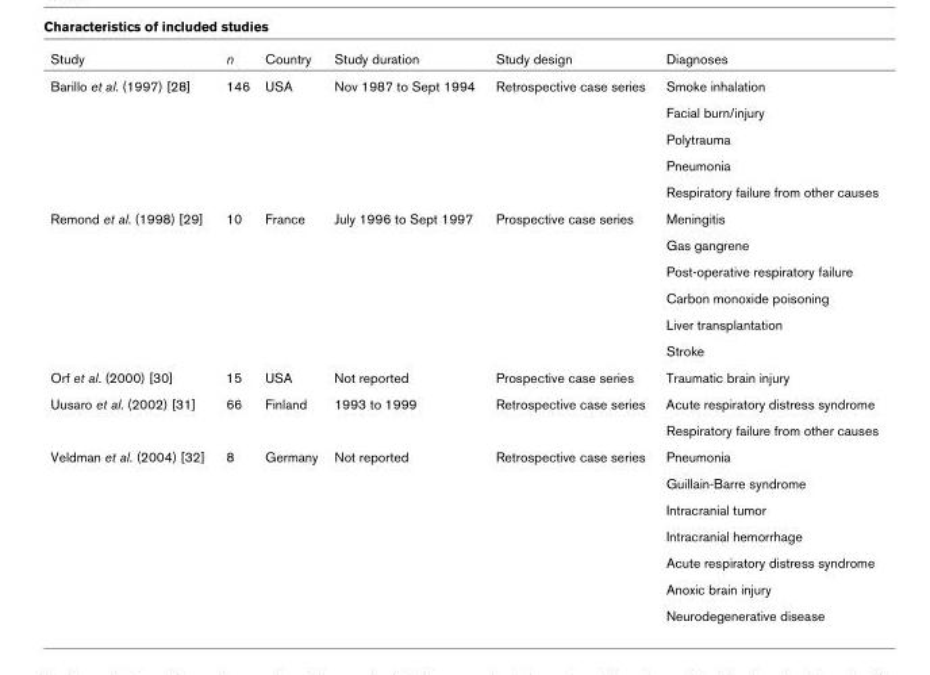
<table><thead><tr><td>Study</td><td>n</td><td>Country</td><td>Study duration</td><td>Study design</td><td>Diagnoses</td></tr></thead><tbody><tr><td rowspan="5">Barillo et al. (1997) [28]</td><td>146</td><td>USA</td><td>Nov 1987 to Sept 1994</td><td>Retrospective case series</td><td>Smoke inhalation</td></tr><tr><td></td><td></td><td></td><td></td><td>Facial burn/injury</td></tr><tr><td></td><td></td><td></td><td></td><td>Polytrauma</td></tr><tr><td></td><td></td><td></td><td></td><td>Pneumonia</td></tr><tr><td></td><td></td><td></td><td></td><td>Respiratory failure from other causes</td></tr><tr><td rowspan="6">Remond et al. (1998) [29]</td><td>10</td><td>France</td><td>July 1996 to Sept 1997</td><td>Prospective case series</td><td>Meningitis</td></tr><tr><td></td><td></td><td></td><td></td><td>Gas gangrene</td></tr><tr><td></td><td></td><td></td><td></td><td>Post-operative respiratory failure</td></tr><tr><td></td><td></td><td></td><td></td><td>Carbon monoxide poisoning</td></tr><tr><td></td><td></td><td></td><td></td><td>Liver transplantation</td></tr><tr><td></td><td></td><td></td><td></td><td>Stroke</td></tr><tr><td>Orf et al. (2000) [30]</td><td>15</td><td>USA</td><td>Not reported</td><td>Prospective case series</td><td>Traumatic brain injury</td></tr><tr><td rowspan="2">Uusaro et al. (2002) [31]</td><td>66</td><td>Finland</td><td>1993 to 1999</td><td>Retrospective case series</td><td>Acute respiratory distress syndrome</td></tr><tr><td></td><td></td><td></td><td></td><td>Respiratory failure from other causes</td></tr><tr><td rowspan="7">Veldman et al. (2004) [32]</td><td>8</td><td>Germany</td><td>Not reported</td><td>Retrospective case series</td><td>Pneumonia</td></tr><tr><td></td><td></td><td></td><td></td><td>Guillain-Barre syndrome</td></tr><tr><td></td><td></td><td></td><td></td><td>Intracranial tumor</td></tr><tr><td></td><td></td><td></td><td></td><td>Intracranial hemorrhage</td></tr><tr><td></td><td></td><td></td><td></td><td>Acute respiratory distress syndrome</td></tr><tr><td></td><td></td><td></td><td></td><td>Anoxic brain injury</td></tr><tr><td></td><td></td><td></td><td></td><td>Neurodegenerative disease</td></tr></tbody></table>